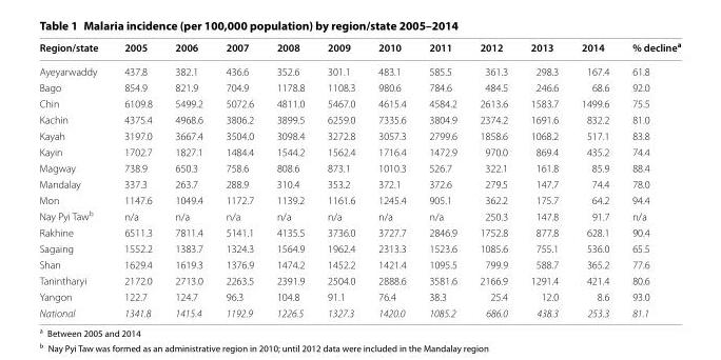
<table><thead><tr><td>Region/state</td><td>2005</td><td>2006</td><td>2007</td><td>2008</td><td>2009</td><td>2010</td><td>2011</td><td>2012</td><td>2013</td><td>2014</td><td>% decline<sup>a</sup></td></tr></thead><tbody><tr><td>Ayeyarwaddy</td><td>437.8</td><td>382.1</td><td>436.6</td><td>352.6</td><td>301.1</td><td>483.1</td><td>585.5</td><td>361.3</td><td>298.3</td><td>167.4</td><td>61.8</td></tr><tr><td>Bago</td><td>854.9</td><td>821.9</td><td>704.9</td><td>1178.8</td><td>1108.3</td><td>980.6</td><td>784.6</td><td>484.5</td><td>246.6</td><td>68.6</td><td>92.0</td></tr><tr><td>Chin</td><td>6109.8</td><td>5499.2</td><td>5072.6</td><td>4811.0</td><td>5467.0</td><td>4615.4</td><td>4584.2</td><td>2613.6</td><td>1583.7</td><td>1499.6</td><td>75.5</td></tr><tr><td>Kachin</td><td>4375.4</td><td>4968.6</td><td>3806.2</td><td>3899.5</td><td>6259.0</td><td>7335.6</td><td>3804.9</td><td>2374.2</td><td>1691.6</td><td>832.2</td><td>81.0</td></tr><tr><td>Kayah</td><td>3197.0</td><td>3667.4</td><td>3504.0</td><td>3098.4</td><td>3272.8</td><td>3057.3</td><td>2799.6</td><td>1858.6</td><td>1068.2</td><td>517.1</td><td>83.8</td></tr><tr><td>Kayin</td><td>1702.7</td><td>1827.1</td><td>1484.4</td><td>1544.2</td><td>1562.4</td><td>1716.4</td><td>1472.9</td><td>970.0</td><td>869.4</td><td>435.2</td><td>74.4</td></tr><tr><td>Magway</td><td>738.9</td><td>650.3</td><td>758.6</td><td>808.6</td><td>873.1</td><td>1010.3</td><td>526.7</td><td>322.1</td><td>161.8</td><td>85.9</td><td>88.4</td></tr><tr><td>Mandalay</td><td>337.3</td><td>263.7</td><td>288.9</td><td>310.4</td><td>353.2</td><td>372.1</td><td>372.6</td><td>279.5</td><td>147.7</td><td>74.4</td><td>78.0</td></tr><tr><td>Mon</td><td>1147.6</td><td>1049.4</td><td>1172.7</td><td>1139.2</td><td>1161.6</td><td>1245.4</td><td>905.1</td><td>362.2</td><td>175.7</td><td>64.2</td><td>94.4</td></tr><tr><td>Nay Pyi Taw<sup>b</sup></td><td>n/a</td><td>n/a</td><td>n/a</td><td>n/a</td><td>n/a</td><td>n/a</td><td>n/a</td><td>250.3</td><td>147.8</td><td>91.7</td><td>n/a</td></tr><tr><td>Rakhine</td><td>6511.3</td><td>7811.4</td><td>5141.1</td><td>4135.5</td><td>3736.0</td><td>3727.7</td><td>2846.9</td><td>1752.8</td><td>877.8</td><td>628.1</td><td>90.4</td></tr><tr><td>Sagaing</td><td>1552.2</td><td>1383.7</td><td>1324.3</td><td>1564.9</td><td>1962.4</td><td>2313.3</td><td>1523.6</td><td>1085.6</td><td>755.1</td><td>536.0</td><td>65.5</td></tr><tr><td>Shan</td><td>1629.4</td><td>1619.3</td><td>1376.9</td><td>1474.2</td><td>1452.2</td><td>1421.4</td><td>1095.5</td><td>799.9</td><td>588.7</td><td>365.2</td><td>77.6</td></tr><tr><td>Tanintharyi</td><td>2172.0</td><td>2713.0</td><td>2263.5</td><td>2391.9</td><td>2504.0</td><td>2888.6</td><td>3581.6</td><td>2166.9</td><td>1291.4</td><td>421.4</td><td>80.6</td></tr><tr><td>Yangon</td><td>122.7</td><td>124.7</td><td>96.3</td><td>104.8</td><td>91.1</td><td>76.4</td><td>38.3</td><td>25.4</td><td>12.0</td><td>8.6</td><td>93.0</td></tr><tr><td>National</td><td>1341.8</td><td>1415.4</td><td>1192.9</td><td>1226.5</td><td>1327.3</td><td>1420.0</td><td>1085.2</td><td>686.0</td><td>438.3</td><td>253.3</td><td>81.1</td></tr></tbody></table>